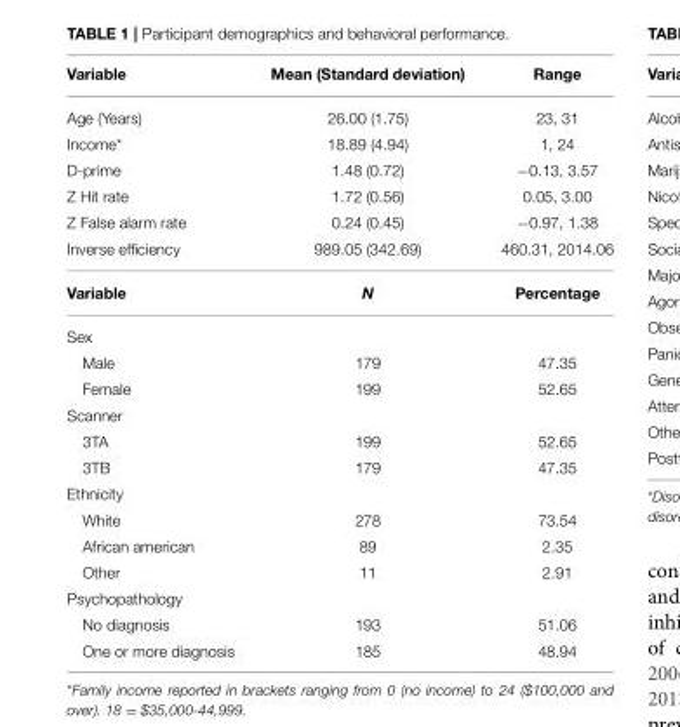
<table><thead><tr><td>Variable</td><td>Mean (Standard deviation)</td><td>Range</td></tr></thead><tbody><tr><td>Age (Years)</td><td>26.00 (1.75)</td><td>23, 31</td></tr><tr><td>Income*</td><td>18.89 (4.94)</td><td>1, 24</td></tr><tr><td>D-prime</td><td>1.48 (0.72)</td><td>−0.13, 3.57</td></tr><tr><td>Z Hit rate</td><td>1.72 (0.56)</td><td>0.05, 3.00</td></tr><tr><td>Z False alarm rate</td><td>0.24 (0.45)</td><td>−0.97, 1.38</td></tr><tr><td>Inverse efficiency</td><td>989.05 (342.69)</td><td>460.31, 2014.06</td></tr><tr><td>Variable</td><td>N</td><td>Percentage</td></tr><tr><td colspan="3">Sex</td></tr><tr><td>Male</td><td>179</td><td>47.35</td></tr><tr><td>Female</td><td>199</td><td>52.65</td></tr><tr><td colspan="3">Scanner</td></tr><tr><td>3TA</td><td>199</td><td>52.65</td></tr><tr><td>3TB</td><td>179</td><td>47.35</td></tr><tr><td colspan="3">Ethnicity</td></tr><tr><td>White</td><td>278</td><td>73.54</td></tr><tr><td>African american</td><td>89</td><td>2.35</td></tr><tr><td>Other</td><td>11</td><td>2.91</td></tr><tr><td colspan="3">Psychopathology</td></tr><tr><td>No diagnosis</td><td>193</td><td>51.06</td></tr><tr><td>One or more diagnosis</td><td>185</td><td>48.94</td></tr></tbody></table>